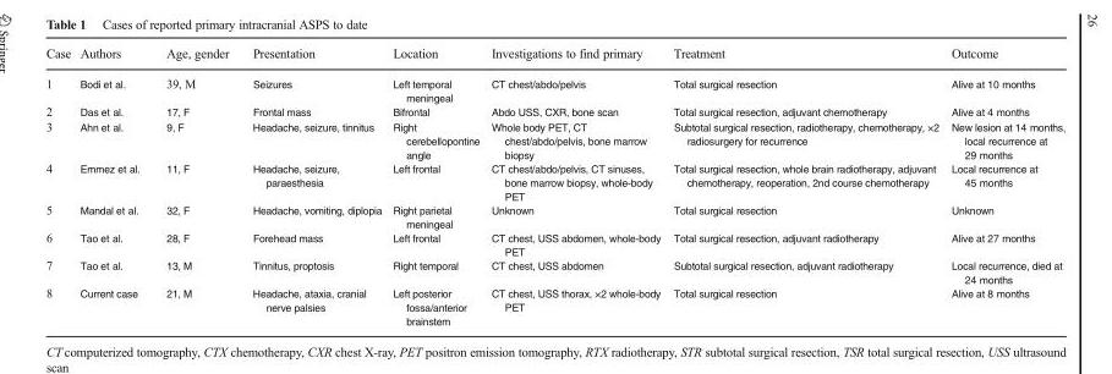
<table><thead><tr><td>Case</td><td>Authors</td><td>Age, gender</td><td>Presentation</td><td>Location</td><td>Investigations to find primary</td><td>Treatment</td><td>Outcome</td></tr></thead><tbody><tr><td>1</td><td>Bodi et al.</td><td>39, M</td><td>Seizures</td><td>Left temporal meningeal</td><td>CT chest/abdo/pelvis</td><td>Total surgical resection</td><td>Alive at 10 months</td></tr><tr><td>2</td><td>Das et al.</td><td>17, F</td><td>Frontal mass</td><td>Bifrontal</td><td>Abdo USS, CXR, bone scan</td><td>Total surgical resection, adjuvant chemotherapy</td><td>Alive at 4 months</td></tr><tr><td>3</td><td>Ahn et al.</td><td>9, F</td><td>Headache, seizure, tinnitus</td><td>Right cerebellopontine angle</td><td>Whole body PET, CT chest/abdo/pelvis, bone marrow biopsy</td><td>Subtotal surgical resection, radiotherapy, chemotherapy, ×2 radiosurgery for recurrence</td><td>New lesion at 14 months, local recurrence at 29 months</td></tr><tr><td>4</td><td>Emmez et al.</td><td>11, F</td><td>Headache, seizure, paraesthesia</td><td>Left frontal</td><td>CT chest/abdo/pelvis, CT sinuses, bone marrow biopsy, whole-body PET</td><td>Total surgical resection, whole brain radiotherapy, adjuvant chemotherapy, reoperation, 2nd course chemotherapy</td><td>Local recurrence at 45 months</td></tr><tr><td>5</td><td>Mandal et al.</td><td>32, F</td><td>Headache, vomiting, diplopia</td><td>Right parietal meningeal</td><td>Unknown</td><td>Total surgical resection</td><td>Unknown</td></tr><tr><td>6</td><td>Tao et al.</td><td>28, F</td><td>Forehead mass</td><td>Left frontal</td><td>CT chest, USS abdomen, whole-body PET</td><td>Total surgical resection, adjuvant radiotherapy</td><td>Alive at 27 months</td></tr><tr><td>7</td><td>Tao et al.</td><td>13, M</td><td>Tinnitus, proptosis</td><td>Right temporal</td><td>CT chest, USS abdomen</td><td>Subtotal surgical resection, adjuvant radiotherapy</td><td>Local recurrence, died at 24 months</td></tr><tr><td>8</td><td>Current case</td><td>21, M</td><td>Headache, ataxia, cranial nerve palsies</td><td>Left posterior fossa/anterior brainstem</td><td>CT chest, USS thorax, ×2 whole-body PET</td><td>Total surgical resection</td><td>Alive at 8 months</td></tr></tbody></table>